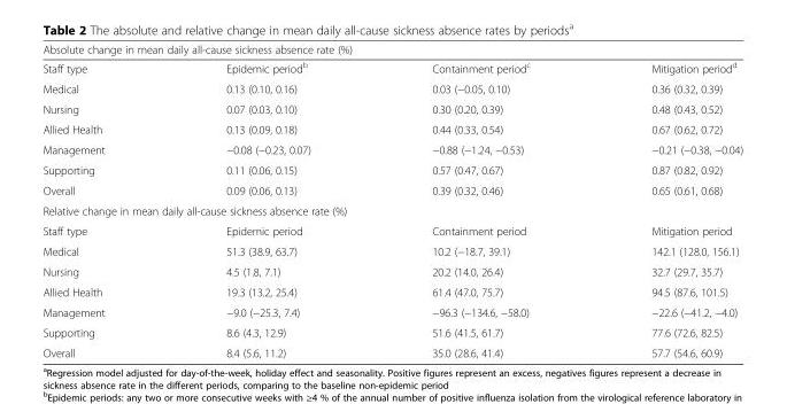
<table><thead><tr><td colspan="4">Absolute change in mean daily all-cause sickness absence rate (%)</td></tr><tr><td>Staff type</td><td>Epidemic period<sup>b</sup></td><td>Containment period<sup>c</sup></td><td>Mitigation period<sup>d</sup></td></tr></thead><tbody><tr><td>Medical</td><td>0.13 (0.10, 0.16)</td><td>0.03 (−0.05, 0.10)</td><td>0.36 (0.32, 0.39)</td></tr><tr><td>Nursing</td><td>0.07 (0.03, 0.10)</td><td>0.30 (0.20, 0.39)</td><td>0.48 (0.43, 0.52)</td></tr><tr><td>Allied Health</td><td>0.13 (0.09, 0.18)</td><td>0.44 (0.33, 0.54)</td><td>0.67 (0.62, 0.72)</td></tr><tr><td>Management</td><td>−0.08 (−0.23, 0.07)</td><td>−0.88 (−1.24, −0.53)</td><td>−0.21 (−0.38, −0.04)</td></tr><tr><td>Supporting</td><td>0.11 (0.06, 0.15)</td><td>0.57 (0.47, 0.67)</td><td>0.87 (0.82, 0.92)</td></tr><tr><td>Overall</td><td>0.09 (0.06, 0.13)</td><td>0.39 (0.32, 0.46)</td><td>0.65 (0.61, 0.68)</td></tr><tr><td colspan="4">Relative change in mean daily all-cause sickness absence rate (%)</td></tr><tr><td>Staff type</td><td>Epidemic period</td><td>Containment period</td><td>Mitigation period</td></tr><tr><td>Medical</td><td>51.3 (38.9, 63.7)</td><td>10.2 (−18.7, 39.1)</td><td>142.1 (128.0, 156.1)</td></tr><tr><td>Nursing</td><td>4.5 (1.8, 7.1)</td><td>20.2 (14.0, 26.4)</td><td>32.7 (29.7, 35.7)</td></tr><tr><td>Allied Health</td><td>19.3 (13.2, 25.4)</td><td>61.4 (47.0, 75.7)</td><td>94.5 (87.6, 101.5)</td></tr><tr><td>Management</td><td>−9.0 (−25.3, 7.4)</td><td>−96.3 (−134.6, −58.0)</td><td>−22.6 (−41.2, −4.0)</td></tr><tr><td>Supporting</td><td>8.6 (4.3, 12.9)</td><td>51.6 (41.5, 61.7)</td><td>77.6 (72.6, 82.5)</td></tr><tr><td>Overall</td><td>8.4 (5.6, 11.2)</td><td>35.0 (28.6, 41.4)</td><td>57.7 (54.6, 60.9)</td></tr></tbody></table>